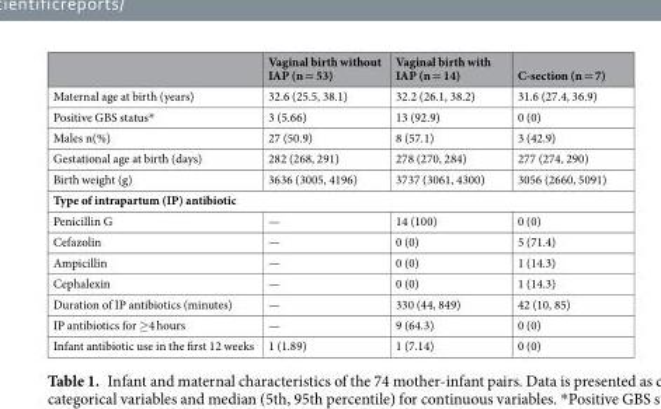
<table><thead><tr><td></td><td>Vaginal birth without IAP (n = 53)</td><td>Vaginal birth with IAP (n = 14)</td><td>C-section (n = 7)</td></tr></thead><tbody><tr><td>Maternal age at birth (years)</td><td>32.6 (25.5, 38.1)</td><td>32.2 (26.1, 38.2)</td><td>31.6 (27.4, 36.9)</td></tr><tr><td>Positive GBS status*</td><td>3 (5.66)</td><td>13 (92.9)</td><td>0 (0)</td></tr><tr><td>Males n(%)</td><td>27 (50.9)</td><td>8 (57.1)</td><td>3 (42.9)</td></tr><tr><td>Gestational age at birth (days)</td><td>282 (268, 291)</td><td>278 (270, 284)</td><td>277 (274, 290)</td></tr><tr><td>Birth weight (g)</td><td>3636 (3005, 4196)</td><td>3737 (3061, 4300)</td><td>3056 (2660, 5091)</td></tr><tr><td colspan="4">Type of intrapartum (IP) antibiotic</td></tr><tr><td>Penicillin G</td><td>—</td><td>14 (100)</td><td>0 (0)</td></tr><tr><td>Cefazolin</td><td>—</td><td>0 (0)</td><td>5 (71.4)</td></tr><tr><td>Ampicillin</td><td>—</td><td>0 (0)</td><td>1 (14.3)</td></tr><tr><td>Cephalexin</td><td>—</td><td>0 (0)</td><td>1 (14.3)</td></tr><tr><td>Duration of IP antibiotics (minutes)</td><td>—</td><td>330 (44, 849)</td><td>42 (10, 85)</td></tr><tr><td>IP antibiotics for ≥4 hours</td><td>—</td><td>9 (64.3)</td><td>0 (0)</td></tr><tr><td>Infant antibiotic use in the first 12 weeks</td><td>1 (1.89)</td><td>1 (7.14)</td><td>0 (0)</td></tr></tbody></table>